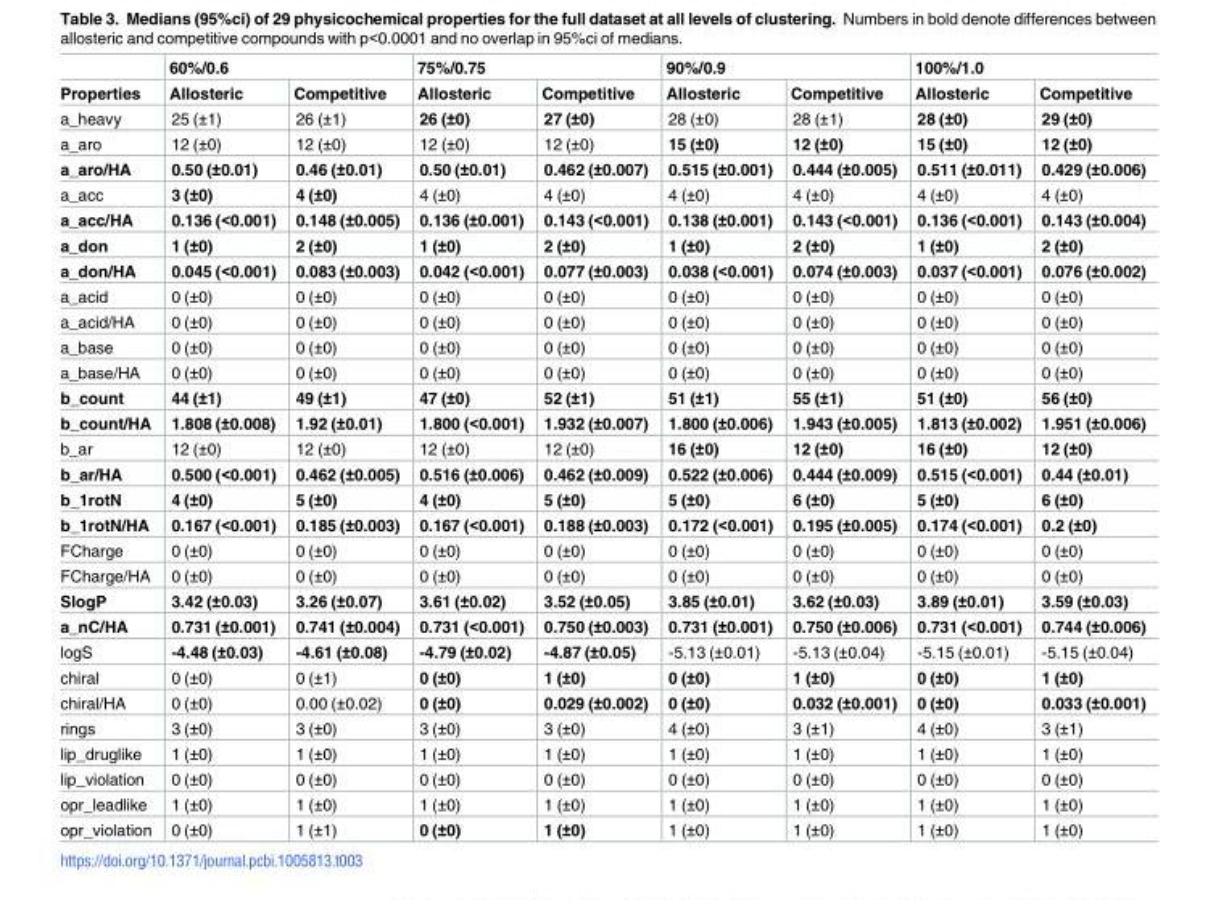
<table><thead><tr><td rowspan="2">Properties</td><td colspan="2">60%/0.6</td><td colspan="2">75%/0.75</td><td colspan="2">90%/0.9</td><td colspan="2">100%/1.0</td></tr><tr><td>Allosteric</td><td>Competitive</td><td>Allosteric</td><td>Competitive</td><td>Allosteric</td><td>Competitive</td><td>Allosteric</td><td>Competitive</td></tr></thead><tbody><tr><td>a_heavy</td><td>25 (±1)</td><td>26 (±1)</td><td>26 (±0)</td><td>27 (±0)</td><td>28 (±0)</td><td>28 (±1)</td><td>28 (±0)</td><td>29 (±0)</td></tr><tr><td>a_aro</td><td>12 (±0)</td><td>12 (±0)</td><td>12 (±0)</td><td>12 (±0)</td><td>15 (±0)</td><td>12 (±0)</td><td>15 (±0)</td><td>12 (±0)</td></tr><tr><td>a_aro/HA</td><td>0.50 (±0.01)</td><td>0.46 (±0.01)</td><td>0.50 (±0.01)</td><td>0.462 (±0.007)</td><td>0.515 (±0.001)</td><td>0.444 (±0.005)</td><td>0.511 (±0.011)</td><td>0.429 (±0.006)</td></tr><tr><td>a_acc</td><td>3 (±0)</td><td>4 (±0)</td><td>4 (±0)</td><td>4 (±0)</td><td>4 (±0)</td><td>4 (±0)</td><td>4 (±0)</td><td>4 (±0)</td></tr><tr><td>a_acc/HA</td><td>0.136 (&lt;0.001)</td><td>0.148 (±0.005)</td><td>0.136 (±0.001)</td><td>0.143 (&lt;0.001)</td><td>0.138 (±0.001)</td><td>0.143 (&lt;0.001)</td><td>0.136 (&lt;0.001)</td><td>0.143 (±0.004)</td></tr><tr><td>a_don</td><td>1 (±0)</td><td>2 (±0)</td><td>1 (±0)</td><td>2 (±0)</td><td>1 (±0)</td><td>2 (±0)</td><td>1 (±0)</td><td>2 (±0)</td></tr><tr><td>a_don/HA</td><td>0.045 (&lt;0.001)</td><td>0.083 (±0.003)</td><td>0.042 (&lt;0.001)</td><td>0.077 (±0.003)</td><td>0.038 (&lt;0.001)</td><td>0.074 (±0.003)</td><td>0.037 (&lt;0.001)</td><td>0.076 (±0.002)</td></tr><tr><td>a_acid</td><td>0 (±0)</td><td>0 (±0)</td><td>0 (±0)</td><td>0 (±0)</td><td>0 (±0)</td><td>0 (±0)</td><td>0 (±0)</td><td>0 (±0)</td></tr><tr><td>a_acid/HA</td><td>0 (±0)</td><td>0 (±0)</td><td>0 (±0)</td><td>0 (±0)</td><td>0 (±0)</td><td>0 (±0)</td><td>0 (±0)</td><td>0 (±0)</td></tr><tr><td>a_base</td><td>0 (±0)</td><td>0 (±0)</td><td>0 (±0)</td><td>0 (±0)</td><td>0 (±0)</td><td>0 (±0)</td><td>0 (±0)</td><td>0 (±0)</td></tr><tr><td>a_base/HA</td><td>0 (±0)</td><td>0 (±0)</td><td>0 (±0)</td><td>0 (±0)</td><td>0 (±0)</td><td>0 (±0)</td><td>0 (±0)</td><td>0 (±0)</td></tr><tr><td>b_count</td><td>44 (±1)</td><td>49 (±1)</td><td>47 (±0)</td><td>52 (±1)</td><td>51 (±1)</td><td>55 (±1)</td><td>51 (±0)</td><td>56 (±0)</td></tr><tr><td>b_count/HA</td><td>1.808 (±0.008)</td><td>1.92 (±0.01)</td><td>1.800 (&lt;0.001)</td><td>1.932 (±0.007)</td><td>1.800 (±0.006)</td><td>1.943 (±0.005)</td><td>1.813 (±0.002)</td><td>1.951 (±0.006)</td></tr><tr><td>b_ar</td><td>12 (±0)</td><td>12 (±0)</td><td>12 (±0)</td><td>12 (±0)</td><td>16 (±0)</td><td>12 (±0)</td><td>16 (±0)</td><td>12 (±0)</td></tr><tr><td>b_ar/HA</td><td>0.500 (&lt;0.001)</td><td>0.462 (±0.005)</td><td>0.516 (±0.006)</td><td>0.462 (±0.009)</td><td>0.522 (±0.006)</td><td>0.444 (±0.009)</td><td>0.515 (&lt;0.001)</td><td>0.44 (±0.01)</td></tr><tr><td>b_1rotN</td><td>4 (±0)</td><td>5 (±0)</td><td>4 (±0)</td><td>5 (±0)</td><td>5 (±0)</td><td>6 (±0)</td><td>5 (±0)</td><td>6 (±0)</td></tr><tr><td>b_1rotN/HA</td><td>0.167 (&lt;0.001)</td><td>0.185 (±0.003)</td><td>0.167 (&lt;0.001)</td><td>0.188 (±0.003)</td><td>0.172 (&lt;0.001)</td><td>0.195 (±0.005)</td><td>0.174 (&lt;0.001)</td><td>0.2 (±0)</td></tr><tr><td>FCharge</td><td>0 (±0)</td><td>0 (±0)</td><td>0 (±0)</td><td>0 (±0)</td><td>0 (±0)</td><td>0 (±0)</td><td>0 (±0)</td><td>0 (±0)</td></tr><tr><td>FCharge/HA</td><td>0 (±0)</td><td>0 (±0)</td><td>0 (±0)</td><td>0 (±0)</td><td>0 (±0)</td><td>0 (±0)</td><td>0 (±0)</td><td>0 (±0)</td></tr><tr><td>SlogP</td><td>3.42 (±0.03)</td><td>3.26 (±0.07)</td><td>3.61 (±0.02)</td><td>3.52 (±0.05)</td><td>3.85 (±0.01)</td><td>3.62 (±0.03)</td><td>3.89 (±0.01)</td><td>3.59 (±0.03)</td></tr><tr><td>a_nC/HA</td><td>0.731 (±0.001)</td><td>0.741 (±0.004)</td><td>0.731 (&lt;0.001)</td><td>0.750 (±0.003)</td><td>0.731 (±0.001)</td><td>0.750 (±0.006)</td><td>0.731 (&lt;0.001)</td><td>0.744 (±0.006)</td></tr><tr><td>logS</td><td>-4.48 (±0.03)</td><td>-4.61 (±0.08)</td><td>-4.79 (±0.02)</td><td>-4.87 (±0.05)</td><td>-5.13 (±0.01)</td><td>-5.13 (±0.04)</td><td>-5.15 (±0.01)</td><td>-5.15 (±0.04)</td></tr><tr><td>chiral</td><td>0 (±0)</td><td>0 (±1)</td><td>0 (±0)</td><td>1 (±0)</td><td>0 (±0)</td><td>1 (±0)</td><td>0 (±0)</td><td>1 (±0)</td></tr><tr><td>chiral/HA</td><td>0 (±0)</td><td>0.00 (±0.02)</td><td>0 (±0)</td><td>0.029 (±0.002)</td><td>0 (±0)</td><td>0.032 (±0.001)</td><td>0 (±0)</td><td>0.033 (±0.001)</td></tr><tr><td>rings</td><td>3 (±0)</td><td>3 (±0)</td><td>3 (±0)</td><td>3 (±0)</td><td>4 (±0)</td><td>3 (±1)</td><td>4 (±0)</td><td>3 (±1)</td></tr><tr><td>lip_druglike</td><td>1 (±0)</td><td>1 (±0)</td><td>1 (±0)</td><td>1 (±0)</td><td>1 (±0)</td><td>1 (±0)</td><td>1 (±0)</td><td>1 (±0)</td></tr><tr><td>lip_violation</td><td>0 (±0)</td><td>0 (±0)</td><td>0 (±0)</td><td>0 (±0)</td><td>0 (±0)</td><td>0 (±0)</td><td>0 (±0)</td><td>0 (±0)</td></tr><tr><td>opr_leadlike</td><td>1 (±0)</td><td>1 (±0)</td><td>1 (±0)</td><td>1 (±0)</td><td>1 (±0)</td><td>1 (±0)</td><td>1 (±0)</td><td>1 (±0)</td></tr><tr><td>opr_violation</td><td>0 (±0)</td><td>1 (±1)</td><td>0 (±0)</td><td>1 (±0)</td><td>1 (±0)</td><td>1 (±0)</td><td>1 (±0)</td><td>1 (±0)</td></tr></tbody></table>